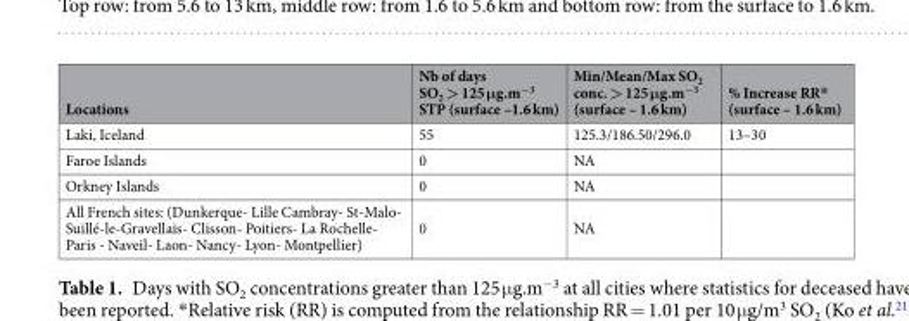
<table><thead><tr><td>Locations</td><td>Nb of days SO<sub>2</sub> &gt; 125 μg.m<sup>−3</sup> STP (surface –1.6 km)</td><td>Min/Mean/Max SO<sub>2</sub> conc. &gt; 125 μg.m<sup>−3</sup> (surface – 1.6 km)</td><td>% Increase RR* (surface – 1.6 km)</td></tr></thead><tbody><tr><td>Laki, Iceland</td><td>55</td><td>125.3/186.50/296.0</td><td>13–30</td></tr><tr><td>Faroe Islands</td><td>0</td><td>NA</td><td></td></tr><tr><td>Orkney Islands</td><td>0</td><td>NA</td><td></td></tr><tr><td>All French sites: (Dunkerque- Lille Cambray- St-Malo- Suillé-le-Gravellais- Clisson- Poitiers- La Rochelle- Paris - Naveil- Laon- Nancy- Lyon- Montpellier)</td><td>0</td><td>NA</td><td></td></tr></tbody></table>